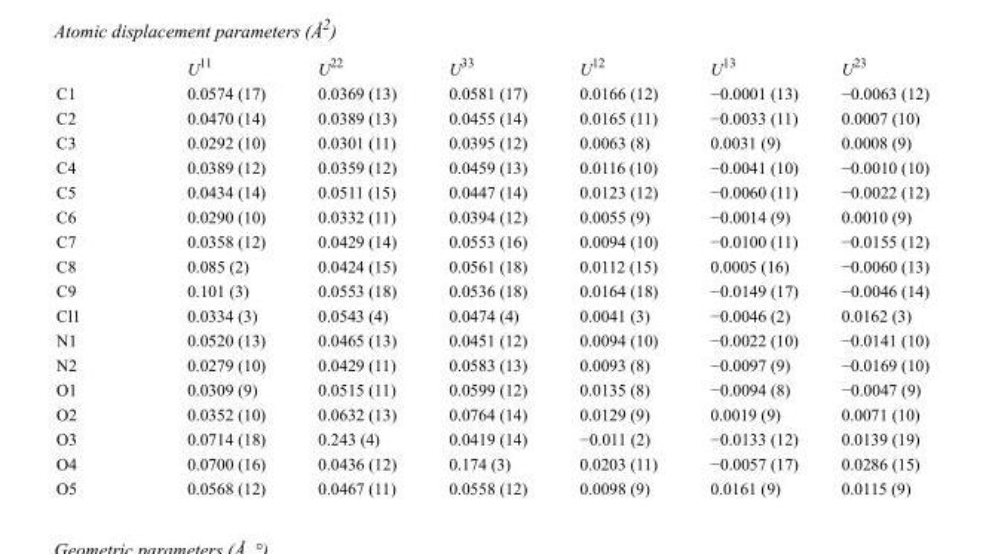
<table><thead><tr><td></td><td>U<sup>11</sup></td><td>U<sup>22</sup></td><td>U<sup>33</sup></td><td>U<sup>12</sup></td><td>U<sup>13</sup></td><td>U<sup>23</sup></td></tr></thead><tbody><tr><td>C1</td><td>0.0574 (17)</td><td>0.0369 (13)</td><td>0.0581 (17)</td><td>0.0166 (12)</td><td>−0.0001 (13)</td><td>−0.0063 (12)</td></tr><tr><td>C2</td><td>0.0470 (14)</td><td>0.0389 (13)</td><td>0.0455 (14)</td><td>0.0165 (11)</td><td>−0.0033 (11)</td><td>0.0007 (10)</td></tr><tr><td>C3</td><td>0.0292 (10)</td><td>0.0301 (11)</td><td>0.0395 (12)</td><td>0.0063 (8)</td><td>0.0031 (9)</td><td>0.0008 (9)</td></tr><tr><td>C4</td><td>0.0389 (12)</td><td>0.0359 (12)</td><td>0.0459 (13)</td><td>0.0116 (10)</td><td>−0.0041 (10)</td><td>−0.0010 (10)</td></tr><tr><td>C5</td><td>0.0434 (14)</td><td>0.0511 (15)</td><td>0.0447 (14)</td><td>0.0123 (12)</td><td>−0.0060 (11)</td><td>−0.0022 (12)</td></tr><tr><td>C6</td><td>0.0290 (10)</td><td>0.0332 (11)</td><td>0.0394 (12)</td><td>0.0055 (9)</td><td>−0.0014 (9)</td><td>0.0010 (9)</td></tr><tr><td>C7</td><td>0.0358 (12)</td><td>0.0429 (14)</td><td>0.0553 (16)</td><td>0.0094 (10)</td><td>−0.0100 (11)</td><td>−0.0155 (12)</td></tr><tr><td>C8</td><td>0.085 (2)</td><td>0.0424 (15)</td><td>0.0561 (18)</td><td>0.0112 (15)</td><td>0.0005 (16)</td><td>−0.0060 (13)</td></tr><tr><td>C9</td><td>0.101 (3)</td><td>0.0553 (18)</td><td>0.0536 (18)</td><td>0.0164 (18)</td><td>−0.0149 (17)</td><td>−0.0046 (14)</td></tr><tr><td>Cl1</td><td>0.0334 (3)</td><td>0.0543 (4)</td><td>0.0474 (4)</td><td>0.0041 (3)</td><td>−0.0046 (2)</td><td>0.0162 (3)</td></tr><tr><td>N1</td><td>0.0520 (13)</td><td>0.0465 (13)</td><td>0.0451 (12)</td><td>0.0094 (10)</td><td>−0.0022 (10)</td><td>−0.0141 (10)</td></tr><tr><td>N2</td><td>0.0279 (10)</td><td>0.0429 (11)</td><td>0.0583 (13)</td><td>0.0093 (8)</td><td>−0.0097 (9)</td><td>−0.0169 (10)</td></tr><tr><td>O1</td><td>0.0309 (9)</td><td>0.0515 (11)</td><td>0.0599 (12)</td><td>0.0135 (8)</td><td>−0.0094 (8)</td><td>−0.0047 (9)</td></tr><tr><td>O2</td><td>0.0352 (10)</td><td>0.0632 (13)</td><td>0.0764 (14)</td><td>0.0129 (9)</td><td>0.0019 (9)</td><td>0.0071 (10)</td></tr><tr><td>O3</td><td>0.0714 (18)</td><td>0.243 (4)</td><td>0.0419 (14)</td><td>−0.011 (2)</td><td>−0.0133 (12)</td><td>0.0139 (19)</td></tr><tr><td>O4</td><td>0.0700 (16)</td><td>0.0436 (12)</td><td>0.174 (3)</td><td>0.0203 (11)</td><td>−0.0057 (17)</td><td>0.0286 (15)</td></tr><tr><td>O5</td><td>0.0568 (12)</td><td>0.0467 (11)</td><td>0.0558 (12)</td><td>0.0098 (9)</td><td>0.0161 (9)</td><td>0.0115 (9)</td></tr></tbody></table>